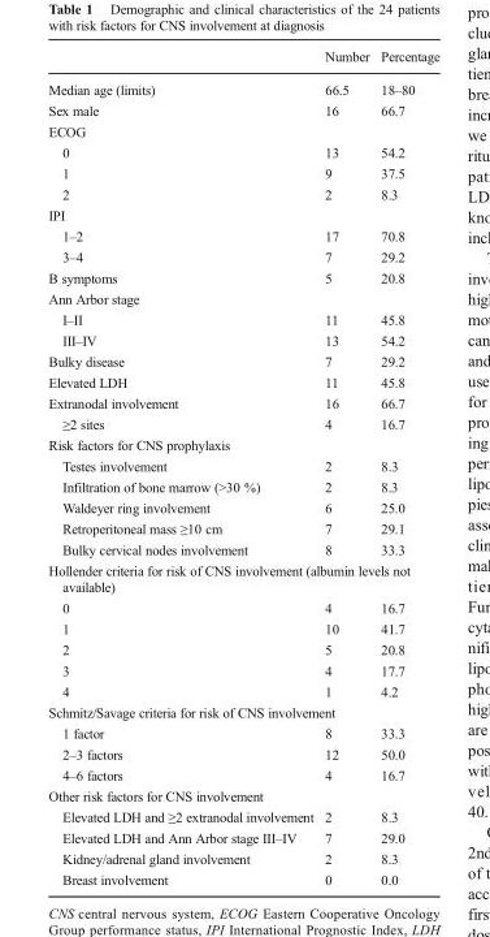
<table><thead><tr><td></td><td>Number</td><td>Percentage</td></tr></thead><tbody><tr><td>Median age (limits)</td><td>66.5</td><td>18–80</td></tr><tr><td>Sex male</td><td>16</td><td>66.7</td></tr><tr><td colspan="3">ECOG</td></tr><tr><td>0</td><td>13</td><td>54.2</td></tr><tr><td>1</td><td>9</td><td>37.5</td></tr><tr><td>2</td><td>2</td><td>8.3</td></tr><tr><td colspan="3">IPI</td></tr><tr><td>1–2</td><td>17</td><td>70.8</td></tr><tr><td>3–4</td><td>7</td><td>29.2</td></tr><tr><td>B symptoms</td><td>5</td><td>20.8</td></tr><tr><td colspan="3">Ann Arbor stage</td></tr><tr><td>I–II</td><td>11</td><td>45.8</td></tr><tr><td>III–IV</td><td>13</td><td>54.2</td></tr><tr><td>Bulky disease</td><td>7</td><td>29.2</td></tr><tr><td>Elevated LDH</td><td>11</td><td>45.8</td></tr><tr><td>Extranodal involvement</td><td>16</td><td>66.7</td></tr><tr><td>≥2 sites</td><td>4</td><td>16.7</td></tr><tr><td colspan="3">Risk factors for CNS prophylaxis</td></tr><tr><td>Testes involvement</td><td>2</td><td>8.3</td></tr><tr><td>Infiltration of bone marrow (&gt;30 %)</td><td>2</td><td>8.3</td></tr><tr><td>Waldeyer ring involvement</td><td>6</td><td>25.0</td></tr><tr><td>Retroperitoneal mass ≥10 cm</td><td>7</td><td>29.1</td></tr><tr><td>Bulky cervical nodes involvement</td><td>8</td><td>33.3</td></tr><tr><td colspan="3">Hollender criteria for risk of CNS involvement (albumin levels not available)</td></tr><tr><td>0</td><td>4</td><td>16.7</td></tr><tr><td>1</td><td>10</td><td>41.7</td></tr><tr><td>2</td><td>5</td><td>20.8</td></tr><tr><td>3</td><td>4</td><td>17.7</td></tr><tr><td>4</td><td>1</td><td>4.2</td></tr><tr><td colspan="3">Schmitz/Savage criteria for risk of CNS involvement</td></tr><tr><td>1 factor</td><td>8</td><td>33.3</td></tr><tr><td>2–3 factors</td><td>12</td><td>50.0</td></tr><tr><td>4–6 factors</td><td>4</td><td>16.7</td></tr><tr><td colspan="3">Other risk factors for CNS involvement</td></tr><tr><td>Elevated LDH and ≥2 extranodal involvement</td><td>2</td><td>8.3</td></tr><tr><td>Elevated LDH and Ann Arbor stage III–IV</td><td>7</td><td>29.0</td></tr><tr><td>Kidney/adrenal gland involvement</td><td>2</td><td>8.3</td></tr><tr><td>Breast involvement</td><td>0</td><td>0.0</td></tr></tbody></table>